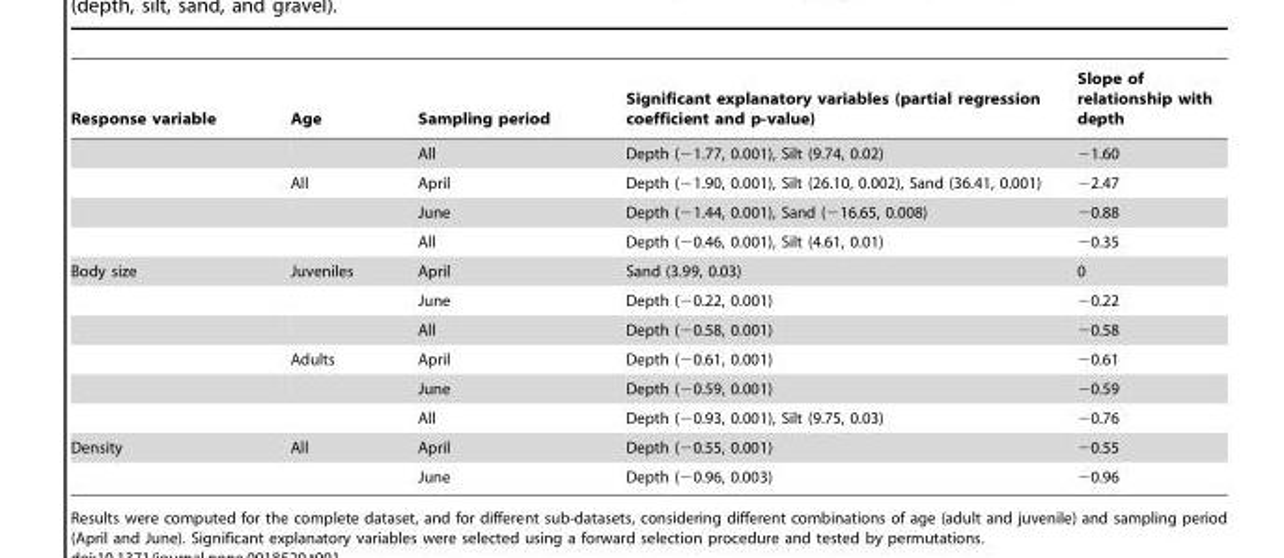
<table><thead><tr><td>Response variable</td><td>Age</td><td>Sampling period</td><td>Significant explanatory variables (partial regression coefficient and p-value)</td><td>Slope of relationship with depth</td></tr></thead><tbody><tr><td></td><td></td><td>All</td><td>Depth (−1.77, 0.001), Silt (9.74, 0.02)</td><td>−1.60</td></tr><tr><td></td><td>All</td><td>April</td><td>Depth (−1.90, 0.001), Silt (26.10, 0.002), Sand (36.41, 0.001)</td><td>−2.47</td></tr><tr><td></td><td></td><td>June</td><td>Depth (−1.44, 0.001), Sand (−16.65, 0.008)</td><td>−0.88</td></tr><tr><td></td><td></td><td>All</td><td>Depth (−0.46, 0.001), Silt (4.61, 0.01)</td><td>−0.35</td></tr><tr><td rowspan="6">Body size</td><td>Juveniles</td><td>April</td><td>Sand (3.99, 0.03)</td><td>0</td></tr><tr><td></td><td>June</td><td>Depth (−0.22, 0.001)</td><td>−0.22</td></tr><tr><td></td><td>All</td><td>Depth (−0.58, 0.001)</td><td>−0.58</td></tr><tr><td>Adults</td><td>April</td><td>Depth (−0.61, 0.001)</td><td>−0.61</td></tr><tr><td></td><td>June</td><td>Depth (−0.59, 0.001)</td><td>−0.59</td></tr><tr><td></td><td>All</td><td>Depth (−0.93, 0.001), Silt (9.75, 0.03)</td><td>−0.76</td></tr><tr><td rowspan="2">Density</td><td>All</td><td>April</td><td>Depth (−0.55, 0.001)</td><td>−0.55</td></tr><tr><td></td><td>June</td><td>Depth (−0.96, 0.003)</td><td>−0.96</td></tr></tbody></table>